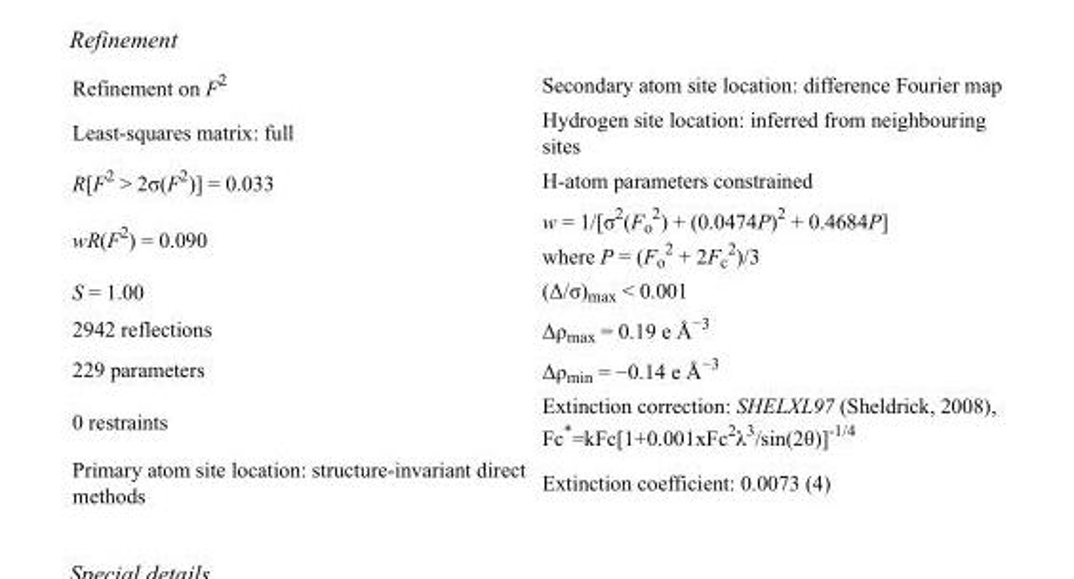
<table><tbody><tr><td>Refinement on F<sup>2</sup></td><td>Secondary atom site location: difference Fourier map</td></tr><tr><td>Least-squares matrix: full</td><td>Hydrogen site location: inferred from neighbouring sites</td></tr><tr><td>R[F<sup>2</sup> &gt; 2σ(F<sup>2</sup>)] = 0.033</td><td>H-atom parameters constrained</td></tr><tr><td>wR(F<sup>2</sup>) = 0.090</td><td>w = 1/[σ<sup>2</sup>(F<sub>o</sub> <sup>2</sup>) + (0.0474P)<sup>2</sup> + 0.4684P] where P = (F<sub>o</sub> <sup>2</sup> + 2F<sub>c</sub> <sup>2</sup>)/3</td></tr><tr><td>S = 1.00</td><td>(Δ/σ)<sub>max</sub> &lt; 0.001</td></tr><tr><td>2942 reflections</td><td>Δρ<sub>max</sub> = 0.19 e Å<sup>−3</sup></td></tr><tr><td>229 parameters</td><td>Δρ<sub>min</sub> = −0.14 e Å<sup>−3</sup></td></tr><tr><td>0 restraints</td><td>Extinction correction: SHELXL97 (Sheldrick, 2008), Fc*=kFc[1+0.001xFc<sup>2</sup>λ<sup>3</sup>/sin(2θ)]<sup>-1/4</sup></td></tr><tr><td>Primary atom site location: structure-invariant direct methods</td><td>Extinction coefficient: 0.0073 (4)</td></tr></tbody></table>